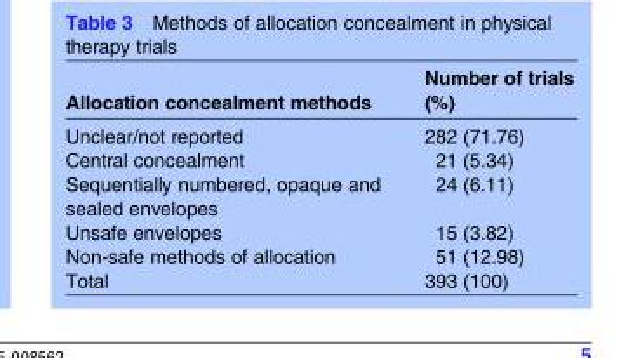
<table><thead><tr><td>Allocation concealment methods</td><td>Number of trials (%)</td></tr></thead><tbody><tr><td>Unclear/not reported</td><td>282 (71.76)</td></tr><tr><td>Central concealment</td><td>21 (5.34)</td></tr><tr><td>Sequentially numbered, opaque and sealed envelopes</td><td>24 (6.11)</td></tr><tr><td>Unsafe envelopes</td><td>15 (3.82)</td></tr><tr><td>Non-safe methods of allocation</td><td>51 (12.98)</td></tr><tr><td>Total</td><td>393 (100)</td></tr></tbody></table>